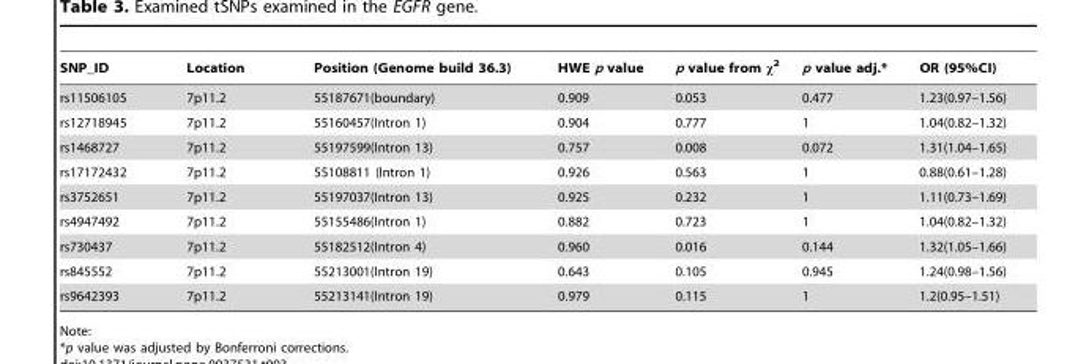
<table><thead><tr><td>SNP_ID</td><td>Location</td><td>Position (Genome build 36.3)</td><td>HWE p value</td><td>p value from χ<sup>2</sup></td><td>p value adj.*</td><td>OR (95%CI)</td></tr></thead><tbody><tr><td>rs11506105</td><td>7p11.2</td><td>55187671(boundary)</td><td>0.909</td><td>0.053</td><td>0.477</td><td>1.23(0.97–1.56)</td></tr><tr><td>rs12718945</td><td>7p11.2</td><td>55160457(Intron 1)</td><td>0.904</td><td>0.777</td><td>1</td><td>1.04(0.82–1.32)</td></tr><tr><td>rs1468727</td><td>7p11.2</td><td>55197599(Intron 13)</td><td>0.757</td><td>0.008</td><td>0.072</td><td>1.31(1.04–1.65)</td></tr><tr><td>rs17172432</td><td>7p11.2</td><td>55108811 (Intron 1)</td><td>0.926</td><td>0.563</td><td>1</td><td>0.88(0.61–1.28)</td></tr><tr><td>rs3752651</td><td>7p11.2</td><td>55197037(Intron 13)</td><td>0.925</td><td>0.232</td><td>1</td><td>1.11(0.73–1.69)</td></tr><tr><td>rs4947492</td><td>7p11.2</td><td>55155486(Intron 1)</td><td>0.882</td><td>0.723</td><td>1</td><td>1.04(0.82–1.32)</td></tr><tr><td>rs730437</td><td>7p11.2</td><td>55182512(Intron 4)</td><td>0.960</td><td>0.016</td><td>0.144</td><td>1.32(1.05–1.66)</td></tr><tr><td>rs845552</td><td>7p11.2</td><td>55213001(Intron 19)</td><td>0.643</td><td>0.105</td><td>0.945</td><td>1.24(0.98–1.56)</td></tr><tr><td>rs9642393</td><td>7p11.2</td><td>55213141(Intron 19)</td><td>0.979</td><td>0.115</td><td>1</td><td>1.2(0.95–1.51)</td></tr></tbody></table>